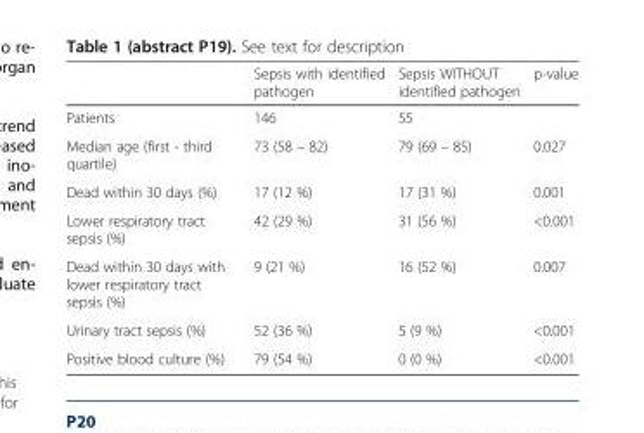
<table><thead><tr><td></td><td>Sepsis with identified pathogen</td><td>Sepsis WITHOUT identified pathogen</td><td>p-value</td></tr></thead><tbody><tr><td>Patients</td><td>146</td><td>55</td><td></td></tr><tr><td>Median age (first - third quartile)</td><td>73 (58 – 82)</td><td>79 (69 – 85)</td><td>0.027</td></tr><tr><td>Dead within 30 days (%)</td><td>17 (12 %)</td><td>17 (31 %)</td><td>0.001</td></tr><tr><td>Lower respiratory tract sepsis (%)</td><td>42 (29 %)</td><td>31 (56 %)</td><td>&lt;0.001</td></tr><tr><td>Dead within 30 days with lower respiratory tract sepsis (%)</td><td>9 (21 %)</td><td>16 (52 %)</td><td>0.007</td></tr><tr><td>Urinary tract sepsis (%)</td><td>52 (36 %)</td><td>5 (9 %)</td><td>&lt;0.001</td></tr><tr><td>Positive blood culture (%)</td><td>79 (54 %)</td><td>0 (0 %)</td><td>&lt;0.001</td></tr></tbody></table>